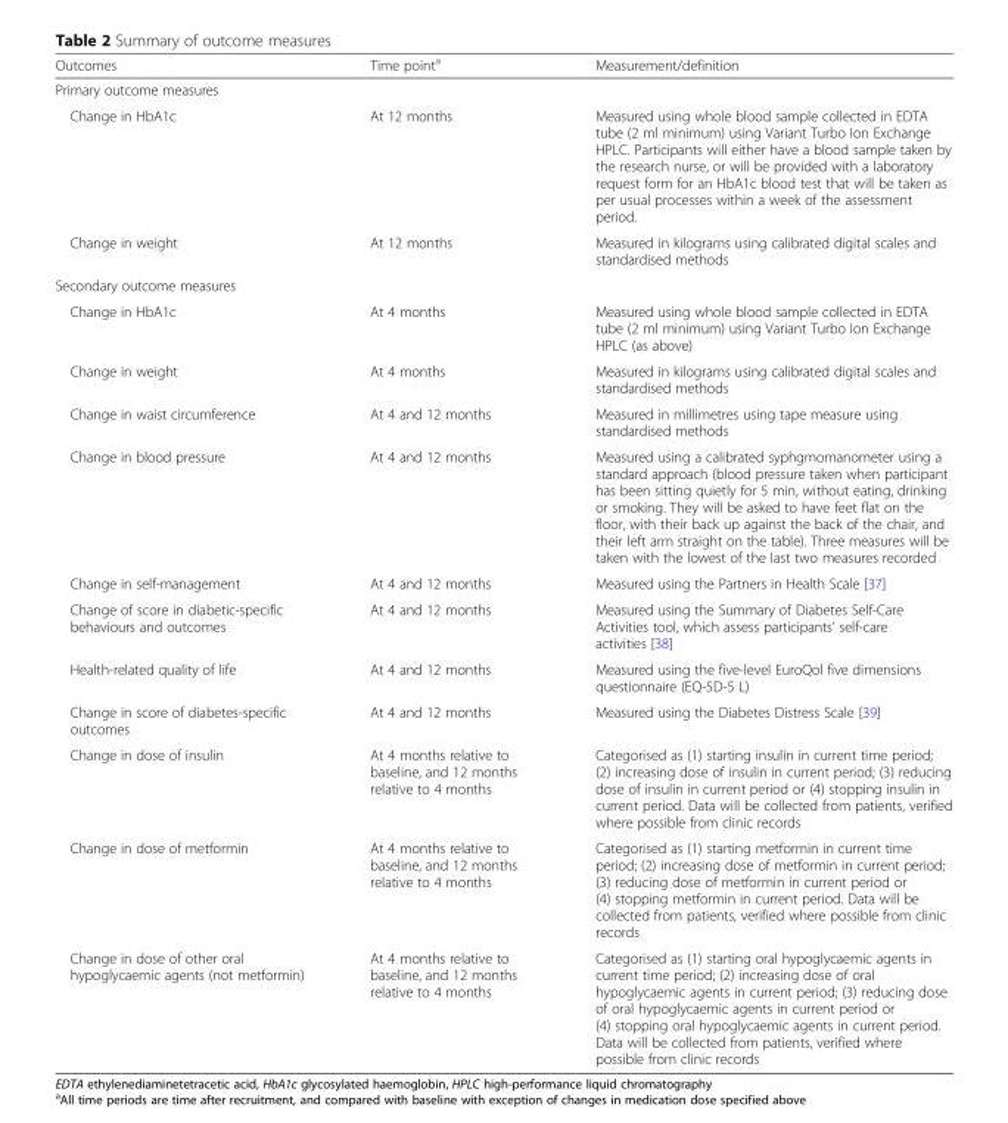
<table><thead><tr><td>Outcomes</td><td>Time point<sup>a</sup></td><td>Measurement/definition</td></tr></thead><tbody><tr><td colspan="3">Primary outcome measures</td></tr><tr><td>Change in HbA1c</td><td>At 12 months</td><td>Measured using whole blood sample collected in EDTA tube (2 ml minimum) using Variant Turbo Ion Exchange HPLC. Participants will either have a blood sample taken by the research nurse, or will be provided with a laboratory request form for an HbA1c blood test that will be taken as per usual processes within a week of the assessment period.</td></tr><tr><td>Change in weight</td><td>At 12 months</td><td>Measured in kilograms using calibrated digital scales and standardised methods</td></tr><tr><td colspan="3">Secondary outcome measures</td></tr><tr><td>Change in HbA1c</td><td>At 4 months</td><td>Measured using whole blood sample collected in EDTA tube (2 ml minimum) using Variant Turbo Ion Exchange HPLC (as above)</td></tr><tr><td>Change in weight</td><td>At 4 months</td><td>Measured in kilograms using calibrated digital scales and standardised methods</td></tr><tr><td>Change in waist circumference</td><td>At 4 and 12 months</td><td>Measured in millimetres using tape measure using standardised methods</td></tr><tr><td>Change in blood pressure</td><td>At 4 and 12 months</td><td>Measured using a calibrated syphgmomanometer using a standard approach (blood pressure taken when participant has been sitting quietly for 5 min, without eating, drinking or smoking. They will be asked to have feet flat on the floor, with their back up against the back of the chair, and their left arm straight on the table). Three measures will be taken with the lowest of the last two measures recorded</td></tr><tr><td>Change in self-management</td><td>At 4 and 12 months</td><td>Measured using the Partners in Health Scale [37]</td></tr><tr><td>Change of score in diabetic-specific behaviours and outcomes</td><td>At 4 and 12 months</td><td>Measured using the Summary of Diabetes Self-Care Activities tool, which assess participants’ self-care activities [38]</td></tr><tr><td>Health-related quality of life</td><td>At 4 and 12 months</td><td>Measured using the five-level EuroQol five dimensions questionnaire (EQ-5D-5 L)</td></tr><tr><td>Change in score of diabetes-specific outcomes</td><td>At 4 and 12 months</td><td>Measured using the Diabetes Distress Scale [39]</td></tr><tr><td>Change in dose of insulin</td><td>At 4 months relative to baseline, and 12 months relative to 4 months</td><td>Categorised as (1) starting insulin in current time period; (2) increasing dose of insulin in current period; (3) reducing dose of insulin in current period or (4) stopping insulin in current period. Data will be collected from patients, verified where possible from clinic records</td></tr><tr><td>Change in dose of metformin</td><td>At 4 months relative to baseline, and 12 months relative to 4 months</td><td>Categorised as (1) starting metformin in current time period; (2) increasing dose of metformin in current period; (3) reducing dose of metformin in current period or (4) stopping metformin in current period. Data will be collected from patients, verified where possible from clinic records</td></tr><tr><td>Change in dose of other oral hypoglycaemic agents (not metformin)</td><td>At 4 months relative to baseline, and 12 months relative to 4 months</td><td>Categorised as (1) starting oral hypoglycaemic agents in current time period; (2) increasing dose of oral hypoglycaemic agents in current period; (3) reducing dose of oral hypoglycaemic agents in current period or (4) stopping oral hypoglycaemic agents in current period. Data will be collected from patients, verified where possible from clinic records</td></tr></tbody></table>